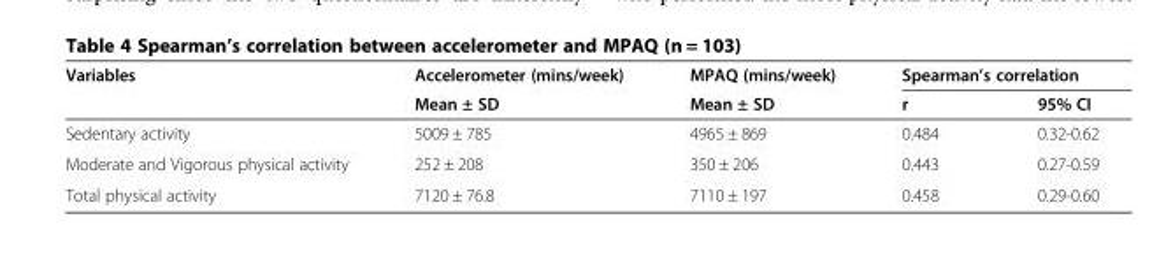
<table><thead><tr><td rowspan="2">Variables</td><td rowspan="2">Accelerometer (mins/week) Mean ± SD</td><td rowspan="2">MPAQ (mins/week) Mean ± SD</td><td colspan="2">Spearman’s correlation</td></tr><tr><td>r</td><td>95% CI</td></tr></thead><tbody><tr><td>Sedentary activity</td><td>5009 ± 785</td><td>4965 ± 869</td><td>0.484</td><td>0.32-0.62</td></tr><tr><td>Moderate and Vigorous physical activity</td><td>252 ± 208</td><td>350 ± 206</td><td>0.443</td><td>0.27-0.59</td></tr><tr><td>Total physical activity</td><td>7120 ± 76.8</td><td>7110 ± 197</td><td>0.458</td><td>0.29-0.60</td></tr></tbody></table>